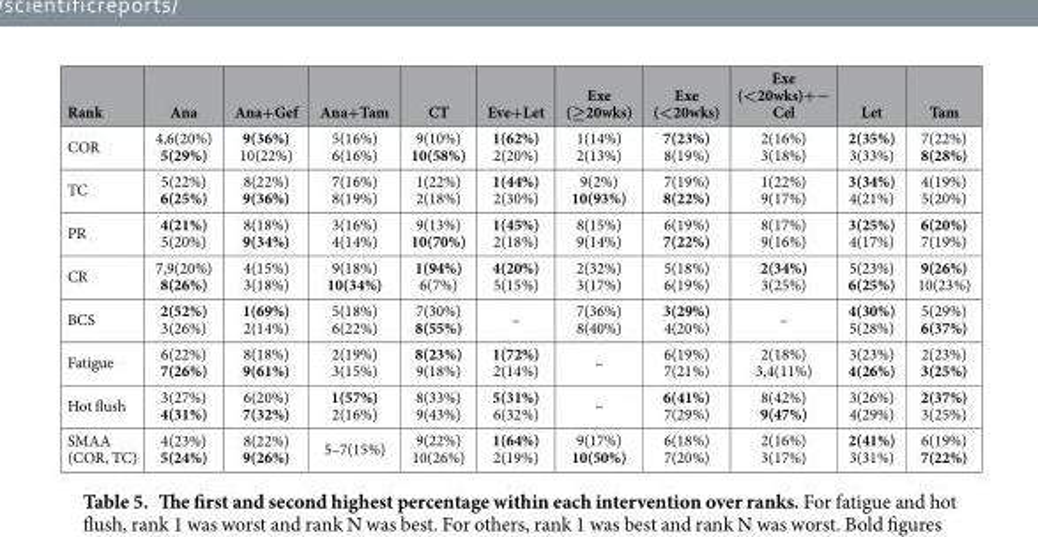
<table><thead><tr><td>Rank</td><td>Ana</td><td>Ana+Gef</td><td>Ana+Tam</td><td>CT</td><td>Eve+Let</td><td>Exe (≥20wks)</td><td>Exe (&lt;20wks)</td><td>Exe (&lt;20wks)+− Cel</td><td>Let</td><td>Tam</td></tr></thead><tbody><tr><td>COR</td><td>4,6(20%) 5(29%)</td><td>9(36%) 10(22%)</td><td>5(16%) 6(16%)</td><td>9(10%) 10(58%)</td><td>1(62%) 2(20%)</td><td>1(14%) 2(13%)</td><td>7(23%) 8(19%)</td><td>2(16%) 3(18%)</td><td>2(35%) 3(33%)</td><td>7(22%) 8(28%)</td></tr><tr><td>TC</td><td>5(22%) 6(25%)</td><td>8(22%) 9(36%)</td><td>7(16%) 8(19%)</td><td>1(22%) 2(18%)</td><td>1(44%) 2(30%)</td><td>9(2%) 10(93%)</td><td>7(19%) 8(22%)</td><td>1(22%) 9(17%)</td><td>3(34%) 4(21%)</td><td>4(19%) 5(20%)</td></tr><tr><td>PR</td><td>4(21%) 5(20%)</td><td>8(18%) 9(34%)</td><td>3(16%) 4(14%)</td><td>9(13%) 10(70%)</td><td>1(45%) 2(18%)</td><td>8(15%) 9(14%)</td><td>6(19%) 7(22%)</td><td>8(17%) 9(16%)</td><td>3(25%) 4(17%)</td><td>6(20%) 7(19%)</td></tr><tr><td>CR</td><td>7,9(20%) 8(26%)</td><td>4(15%) 3(18%)</td><td>9(18%) 10(34%)</td><td>1(94%) 6(7%)</td><td>4(20%) 5(15%)</td><td>2(32%) 3(17%)</td><td>5(18%) 6(19%)</td><td>2(34%) 3(25%)</td><td>5(23%) 6(25%)</td><td>9(26%) 10(23%)</td></tr><tr><td>BCS</td><td>2(52%) 3(26%)</td><td>1(69%) 2(14%)</td><td>5(18%) 6(22%)</td><td>7(30%) 8(55%)</td><td>–</td><td>7(36%) 8(40%)</td><td>3(29%) 4(20%)</td><td>–</td><td>4(30%) 5(28%)</td><td>5(29%) 6(37%)</td></tr><tr><td>Fatigue</td><td>6(22%) 7(26%)</td><td>8(18%) 9(61%)</td><td>2(19%) 3(15%)</td><td>8(23%) 9(18%)</td><td>1(72%) 2(14%)</td><td>–</td><td>6(19%) 7(21%)</td><td>2(18%) 3,4(11%)</td><td>3(23%) 4(26%)</td><td>2(23%) 3(25%)</td></tr><tr><td>Hot flush</td><td>3(27%) 4(31%)</td><td>6(20%) 7(32%)</td><td>1(57%) 2(16%)</td><td>8(33%) 9(43%)</td><td>5(31%) 6(32%)</td><td>–</td><td>6(41%) 7(29%)</td><td>8(42%) 9(47%)</td><td>3(26%) 4(29%)</td><td>2(37%) 3(25%)</td></tr><tr><td>SMAA (COR, TC)</td><td>4(23%) 5(24%)</td><td>8(22%) 9(26%)</td><td>5–7(15%)</td><td>9(22%) 10(26%)</td><td>1(64%) 2(19%)</td><td>9(17%) 10(50%)</td><td>6(18%) 7(20%)</td><td>2(16%) 3(17%)</td><td>2(41%) 3(31%)</td><td>6(19%) 7(22%)</td></tr></tbody></table>